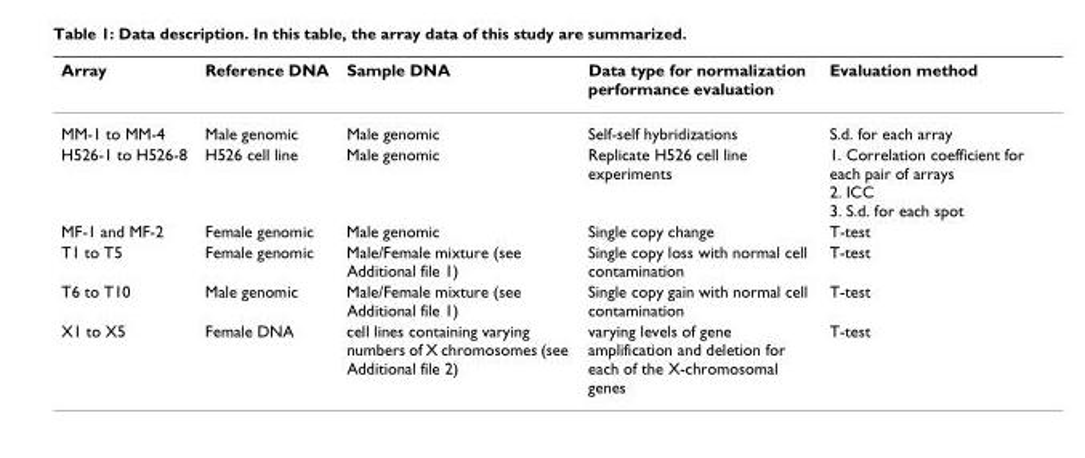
<table><thead><tr><td>Array</td><td>Reference DNA</td><td>Sample DNA</td><td>Data type for normalization performance evaluation</td><td>Evaluation method</td></tr></thead><tbody><tr><td>MM-1 to MM-4</td><td>Male genomic</td><td>Male genomic</td><td>Self-self hybridizations</td><td>S.d. for each array</td></tr><tr><td>H526-1 to H526-8</td><td>H526 cell line</td><td>Male genomic</td><td>Replicate H526 cell line experiments</td><td>1. Correlation coefficient for each pair of arrays 2. ICC 3. S.d. for each spot</td></tr><tr><td>MF-1 and MF-2</td><td>Female genomic</td><td>Male genomic</td><td>Single copy change</td><td>T-test</td></tr><tr><td>T1 to T5</td><td>Female genomic</td><td>Male/Female mixture (see Additional file 1)</td><td>Single copy loss with normal cell contamination</td><td>T-test</td></tr><tr><td>T6 to T10</td><td>Male genomic</td><td>Male/Female mixture (see Additional file 1)</td><td>Single copy gain with normal cell contamination</td><td>T-test</td></tr><tr><td>X1 to X5</td><td>Female DNA</td><td>cell lines containing varying numbers of X chromosomes (see Additional file 2)</td><td>varying levels of gene amplification and deletion for each of the X-chromosomal genes</td><td>T-test</td></tr></tbody></table>